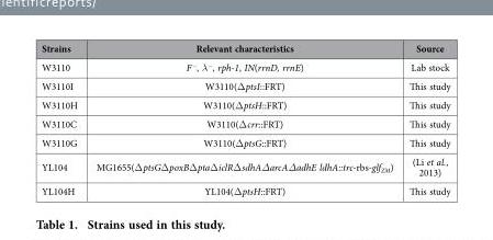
<table><thead><tr><td>Strains</td><td>Relevant characteristics</td><td>Source</td></tr></thead><tbody><tr><td>W3110</td><td>F<sup>−</sup>, λ<sup>−</sup>, rph-1, IN(rrnD, rrnE)</td><td>Lab stock</td></tr><tr><td>W3110I</td><td>W3110(Δ ptsI::FRT)</td><td>This study</td></tr><tr><td>W3110H</td><td>W3110(Δ ptsH::FRT)</td><td>This study</td></tr><tr><td>W3110C</td><td>W3110(Δ crr::FRT)</td><td>This study</td></tr><tr><td>W3110G</td><td>W3110(Δ ptsG::FRT)</td><td>This study</td></tr><tr><td>YL104</td><td>MG1655(Δ ptsGΔ poxBΔ ptaΔ iclRΔ sdhAΔarcAΔadhE ldhA::trc-rbs-glf<sub>ZM</sub>)</td><td>(Li et al., 2013)</td></tr><tr><td>YL104H</td><td>YL104(Δ ptsH::FRT)</td><td>This study</td></tr></tbody></table>